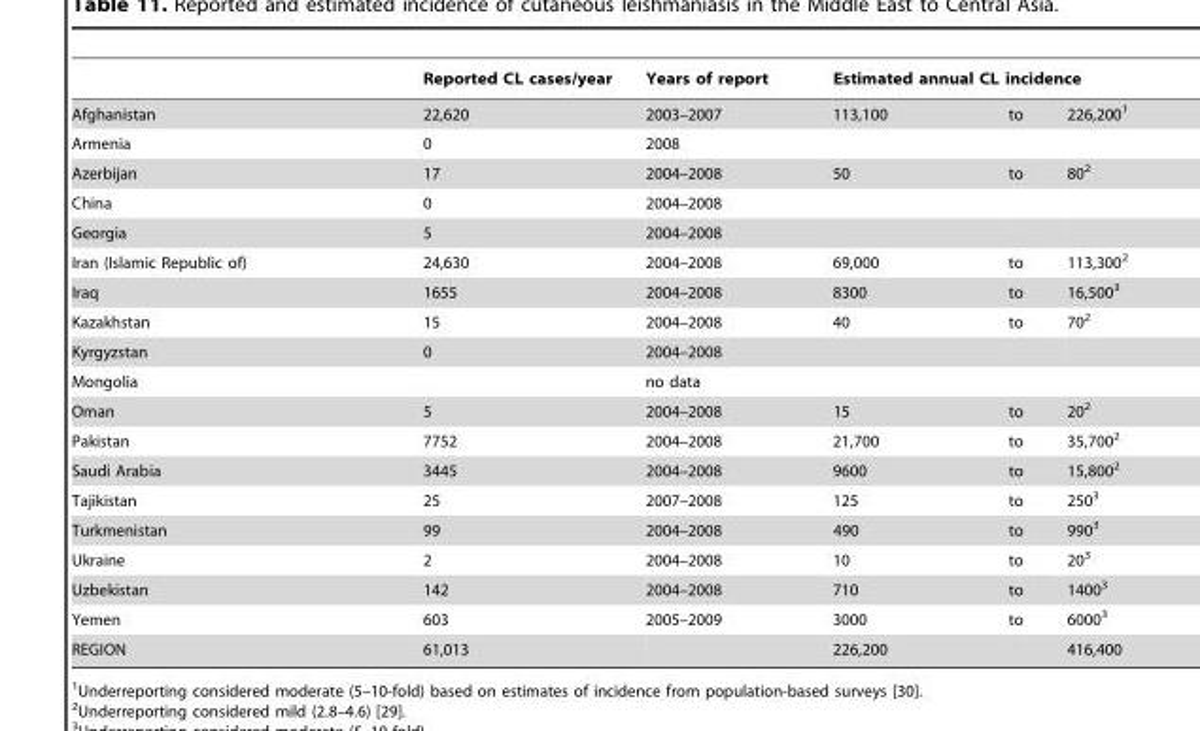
<table><thead><tr><td rowspan="2">Afghanistan</td><td rowspan="2">Reported CL cases/year 22,620</td><td rowspan="2">Years of report 2003–2007</td><td colspan="3">Estimated annual CL incidence</td></tr><tr><td>113,100</td><td>to</td><td>226,200<sup>1</sup></td></tr></thead><tbody><tr><td>Armenia</td><td>0</td><td>2008</td><td></td><td></td><td></td></tr><tr><td>Azerbijan</td><td>17</td><td>2004–2008</td><td>50</td><td>to</td><td>80<sup>2</sup></td></tr><tr><td>China</td><td>0</td><td>2004–2008</td><td></td><td></td><td></td></tr><tr><td>Georgia</td><td>5</td><td>2004–2008</td><td></td><td></td><td></td></tr><tr><td>Iran (Islamic Republic of)</td><td>24,630</td><td>2004–2008</td><td>69,000</td><td>to</td><td>113,300<sup>2</sup></td></tr><tr><td>Iraq</td><td>1655</td><td>2004–2008</td><td>8300</td><td>to</td><td>16,500<sup>3</sup></td></tr><tr><td>Kazakhstan</td><td>15</td><td>2004–2008</td><td>40</td><td>to</td><td>70<sup>2</sup></td></tr><tr><td>Kyrgyzstan</td><td>0</td><td>2004–2008</td><td></td><td></td><td></td></tr><tr><td>Mongolia</td><td></td><td>no data</td><td></td><td></td><td></td></tr><tr><td>Oman</td><td>5</td><td>2004–2008</td><td>15</td><td>to</td><td>20<sup>2</sup></td></tr><tr><td>Pakistan</td><td>7752</td><td>2004–2008</td><td>21,700</td><td>to</td><td>35,700<sup>2</sup></td></tr><tr><td>Saudi Arabia</td><td>3445</td><td>2004–2008</td><td>9600</td><td>to</td><td>15,800<sup>2</sup></td></tr><tr><td>Tajikistan</td><td>25</td><td>2007–2008</td><td>125</td><td>to</td><td>250<sup>3</sup></td></tr><tr><td>Turkmenistan</td><td>99</td><td>2004–2008</td><td>490</td><td>to</td><td>990<sup>3</sup></td></tr><tr><td>Ukraine</td><td>2</td><td>2004–2008</td><td>10</td><td>to</td><td>20<sup>3</sup></td></tr><tr><td>Uzbekistan</td><td>142</td><td>2004–2008</td><td>710</td><td>to</td><td>1400<sup>3</sup></td></tr><tr><td>Yemen</td><td>603</td><td>2005–2009</td><td>3000</td><td>to</td><td>6000<sup>3</sup></td></tr><tr><td>REGION</td><td>61,013</td><td></td><td>226,200</td><td></td><td>416,400</td></tr></tbody></table>